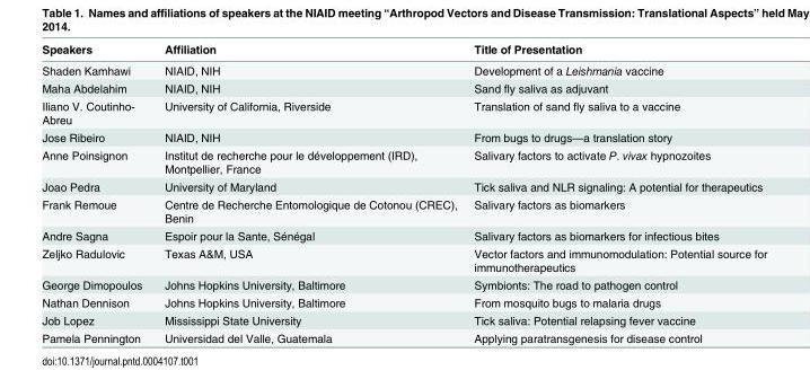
<table><thead><tr><td>Speakers</td><td>Affiliation</td><td>Title of Presentation</td></tr></thead><tbody><tr><td>Shaden Kamhawi</td><td>NIAID, NIH</td><td>Development of a Leishmania vaccine</td></tr><tr><td>Maha Abdelahim</td><td>NIAID, NIH</td><td>Sand fly saliva as adjuvant</td></tr><tr><td>Iliano V. Coutinho- Abreu</td><td>University of California, Riverside</td><td>Translation of sand fly saliva to a vaccine</td></tr><tr><td>Jose Ribeiro</td><td>NIAID, NIH</td><td>From bugs to drugs—a translation story</td></tr><tr><td>Anne Poinsignon</td><td>Institut de recherche pour le développement (IRD), Montpellier, France</td><td>Salivary factors to activate P. vivax hypnozoites</td></tr><tr><td>Joao Pedra</td><td>University of Maryland</td><td>Tick saliva and NLR signaling: A potential for therapeutics</td></tr><tr><td>Frank Remoue</td><td>Centre de Recherche Entomologique de Cotonou (CREC), Benin</td><td>Salivary factors as biomarkers</td></tr><tr><td>Andre Sagna</td><td>Espoir pour la Sante, Sénégal</td><td>Salivary factors as biomarkers for infectious bites</td></tr><tr><td>Zeljko Radulovic</td><td>Texas A&amp;M, USA</td><td>Vector factors and immunomodulation: Potential source for immunotherapeutics</td></tr><tr><td>George Dimopoulos</td><td>Johns Hopkins University, Baltimore</td><td>Symbionts: The road to pathogen control</td></tr><tr><td>Nathan Dennison</td><td>Johns Hopkins University, Baltimore</td><td>From mosquito bugs to malaria drugs</td></tr><tr><td>Job Lopez</td><td>Mississippi State University</td><td>Tick saliva: Potential relapsing fever vaccine</td></tr><tr><td>Pamela Pennington</td><td>Universidad del Valle, Guatemala</td><td>Applying paratransgenesis for disease control</td></tr></tbody></table>